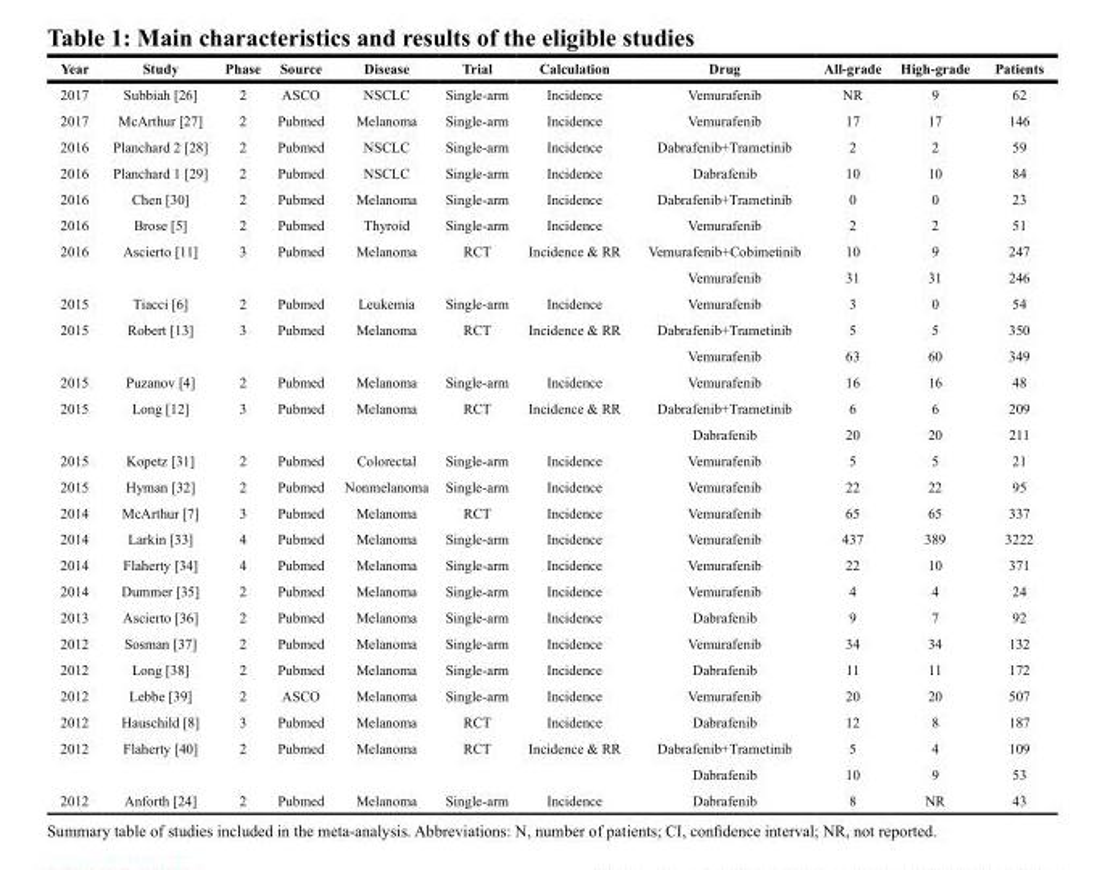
<table><thead><tr><td>Year</td><td>Study</td><td>Phase</td><td>Source</td><td>Disease</td><td>Trial</td><td>Calculation</td><td>Drug</td><td>All-grade</td><td>High-grade</td><td>Patients</td></tr></thead><tbody><tr><td>2017</td><td>Subbiah [26]</td><td>2</td><td>ASCO</td><td>NSCLC</td><td>Single-arm</td><td>Incidence</td><td>Vemurafenib</td><td>NR</td><td>9</td><td>62</td></tr><tr><td>2017</td><td>McArthur [27]</td><td>2</td><td>Pubmed</td><td>Melanoma</td><td>Single-arm</td><td>Incidence</td><td>Vemurafenib</td><td>17</td><td>17</td><td>146</td></tr><tr><td>2016</td><td>Planchard 2 [28]</td><td>2</td><td>Pubmed</td><td>NSCLC</td><td>Single-arm</td><td>Incidence</td><td>Dabrafenib+Trametinib</td><td>2</td><td>2</td><td>59</td></tr><tr><td>2016</td><td>Planchard 1 [29]</td><td>2</td><td>Pubmed</td><td>NSCLC</td><td>Single-arm</td><td>Incidence</td><td>Dabrafenib</td><td>10</td><td>10</td><td>84</td></tr><tr><td>2016</td><td>Chen [30]</td><td>2</td><td>Pubmed</td><td>Melanoma</td><td>Single-arm</td><td>Incidence</td><td>Dabrafenib+Trametinib</td><td>0</td><td>0</td><td>23</td></tr><tr><td>2016</td><td>Brose [5]</td><td>2</td><td>Pubmed</td><td>Thyroid</td><td>Single-arm</td><td>Incidence</td><td>Vemurafenib</td><td>2</td><td>2</td><td>51</td></tr><tr><td rowspan="2">2016</td><td>Ascierto [11]</td><td>3</td><td>Pubmed</td><td>Melanoma</td><td>RCT</td><td>Incidence &amp; RR</td><td>Vemurafenib+Cobimetinib</td><td>10</td><td>9</td><td>247</td></tr><tr><td></td><td></td><td></td><td></td><td></td><td></td><td>Vemurafenib</td><td>31</td><td>31</td><td>246</td></tr><tr><td>2015</td><td>Tiacci [6]</td><td>2</td><td>Pubmed</td><td>Leukemia</td><td>Single-arm</td><td>Incidence</td><td>Vemurafenib</td><td>3</td><td>0</td><td>54</td></tr><tr><td rowspan="2">2015</td><td>Robert [13]</td><td>3</td><td>Pubmed</td><td>Melanoma</td><td>RCT</td><td>Incidence &amp; RR</td><td>Dabrafenib+Trametinib</td><td>5</td><td>5</td><td>350</td></tr><tr><td></td><td></td><td></td><td></td><td></td><td></td><td>Vemurafenib</td><td>63</td><td>60</td><td>349</td></tr><tr><td>2015</td><td>Puzanov [4]</td><td>2</td><td>Pubmed</td><td>Melanoma</td><td>Single-arm</td><td>Incidence</td><td>Vemurafenib</td><td>16</td><td>16</td><td>48</td></tr><tr><td rowspan="2">2015</td><td>Long [12]</td><td>3</td><td>Pubmed</td><td>Melanoma</td><td>RCT</td><td>Incidence &amp; RR</td><td>Dabrafenib+Trametinib</td><td>6</td><td>6</td><td>209</td></tr><tr><td></td><td></td><td></td><td></td><td></td><td></td><td>Dabrafenib</td><td>20</td><td>20</td><td>211</td></tr><tr><td>2015</td><td>Kopetz [31]</td><td>2</td><td>Pubmed</td><td>Colorectal</td><td>Single-arm</td><td>Incidence</td><td>Vemurafenib</td><td>5</td><td>5</td><td>21</td></tr><tr><td>2015</td><td>Hyman [32]</td><td>2</td><td>Pubmed</td><td>Nonmelanoma</td><td>Single-arm</td><td>Incidence</td><td>Vemurafenib</td><td>22</td><td>22</td><td>95</td></tr><tr><td>2014</td><td>McArthur [7]</td><td>3</td><td>Pubmed</td><td>Melanoma</td><td>RCT</td><td>Incidence</td><td>Vemurafenib</td><td>65</td><td>65</td><td>337</td></tr><tr><td>2014</td><td>Larkin [33]</td><td>4</td><td>Pubmed</td><td>Melanoma</td><td>Single-arm</td><td>Incidence</td><td>Vemurafenib</td><td>437</td><td>389</td><td>3222</td></tr><tr><td>2014</td><td>Flaherty [34]</td><td>4</td><td>Pubmed</td><td>Melanoma</td><td>Single-arm</td><td>Incidence</td><td>Vemurafenib</td><td>22</td><td>10</td><td>371</td></tr><tr><td>2014</td><td>Dummer [35]</td><td>2</td><td>Pubmed</td><td>Melanoma</td><td>Single-arm</td><td>Incidence</td><td>Vemurafenib</td><td>4</td><td>4</td><td>24</td></tr><tr><td>2013</td><td>Ascierto [36]</td><td>2</td><td>Pubmed</td><td>Melanoma</td><td>Single-arm</td><td>Incidence</td><td>Dabrafenib</td><td>9</td><td>7</td><td>92</td></tr><tr><td>2012</td><td>Sosman [37]</td><td>2</td><td>Pubmed</td><td>Melanoma</td><td>Single-arm</td><td>Incidence</td><td>Vemurafenib</td><td>34</td><td>34</td><td>132</td></tr><tr><td>2012</td><td>Long [38]</td><td>2</td><td>Pubmed</td><td>Melanoma</td><td>Single-arm</td><td>Incidence</td><td>Dabrafenib</td><td>11</td><td>11</td><td>172</td></tr><tr><td>2012</td><td>Lebbe [39]</td><td>2</td><td>ASCO</td><td>Melanoma</td><td>Single-arm</td><td>Incidence</td><td>Vemurafenib</td><td>20</td><td>20</td><td>507</td></tr><tr><td>2012</td><td>Hauschild [8]</td><td>3</td><td>Pubmed</td><td>Melanoma</td><td>RCT</td><td>Incidence</td><td>Dabrafenib</td><td>12</td><td>8</td><td>187</td></tr><tr><td rowspan="2">2012</td><td>Flaherty [40]</td><td>2</td><td>Pubmed</td><td>Melanoma</td><td>RCT</td><td>Incidence &amp; RR</td><td>Dabrafenib+Trametinib</td><td>5</td><td>4</td><td>109</td></tr><tr><td></td><td></td><td></td><td></td><td></td><td></td><td>Dabrafenib</td><td>10</td><td>9</td><td>53</td></tr><tr><td>2012</td><td>Anforth [24]</td><td>2</td><td>Pubmed</td><td>Melanoma</td><td>Single-arm</td><td>Incidence</td><td>Dabrafenib</td><td>8</td><td>NR</td><td>43</td></tr></tbody></table>